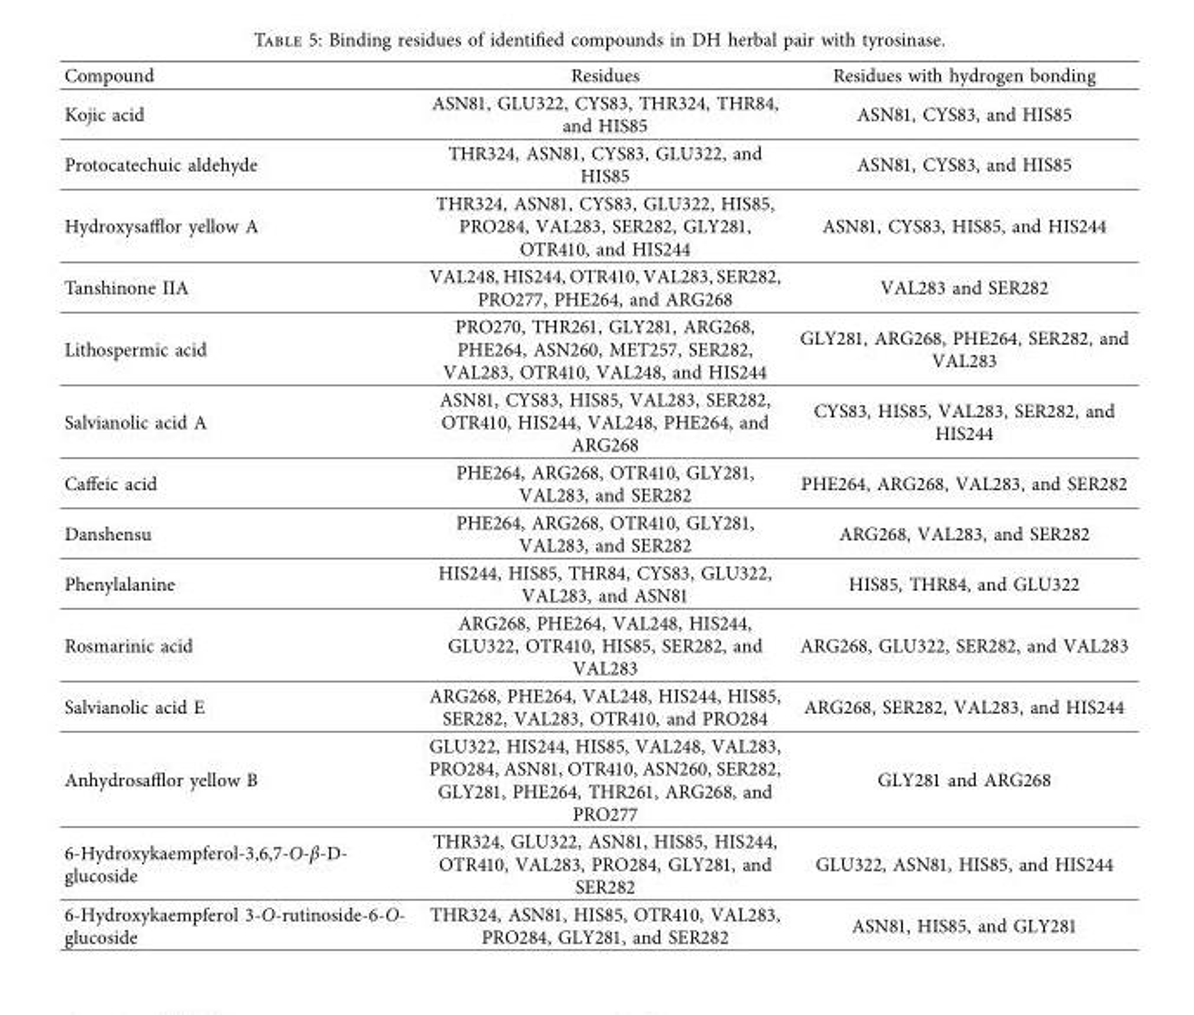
<table><thead><tr><td>Compound</td><td>Residues</td><td>Residues with hydrogen bonding</td></tr></thead><tbody><tr><td>Kojic acid</td><td>ASN81, GLU322, CYS83, THR324, THR84, and HIS85</td><td>ASN81, CYS83, and HIS85</td></tr><tr><td>Protocatechuic aldehyde</td><td>THR324, ASN81, CYS83, GLU322, and HIS85</td><td>ASN81, CYS83, and HIS85</td></tr><tr><td>Hydroxysafflor yellow A</td><td>THR324, ASN81, CYS83, GLU322, HIS85, PRO284, VAL283, SER282, GLY281, OTR410, and HIS244</td><td>ASN81, CYS83, HIS85, and HIS244</td></tr><tr><td>Tanshinone IIA</td><td>VAL248, HIS244, OTR410, VAL283, SER282, PRO277, PHE264, and ARG268</td><td>VAL283 and SER282</td></tr><tr><td>Lithospermic acid</td><td>PRO270, THR261, GLY281, ARG268, PHE264, ASN260, MET257, SER282, VAL283, OTR410, VAL248, and HIS244</td><td>GLY281, ARG268, PHE264, SER282, and VAL283</td></tr><tr><td>Salvianolic acid A</td><td>ASN81, CYS83, HIS85, VAL283, SER282, OTR410, HIS244, VAL248, PHE264, and ARG268</td><td>CYS83, HIS85, VAL283, SER282, and HIS244</td></tr><tr><td>Caffeic acid</td><td>PHE264, ARG268, OTR410, GLY281, VAL283, and SER282</td><td>PHE264, ARG268, VAL283, and SER282</td></tr><tr><td>Danshensu</td><td>PHE264, ARG268, OTR410, GLY281, VAL283, and SER282</td><td>ARG268, VAL283, and SER282</td></tr><tr><td>Phenylalanine</td><td>HIS244, HIS85, THR84, CYS83, GLU322, VAL283, and ASN81</td><td>HIS85, THR84, and GLU322</td></tr><tr><td>Rosmarinic acid</td><td>ARG268, PHE264, VAL248, HIS244, GLU322, OTR410, HIS85, SER282, and VAL283</td><td>ARG268, GLU322, SER282, and VAL283</td></tr><tr><td>Salvianolic acid E</td><td>ARG268, PHE264, VAL248, HIS244, HIS85, SER282, VAL283, OTR410, and PRO284</td><td>ARG268, SER282, VAL283, and HIS244</td></tr><tr><td>Anhydrosafflor yellow B</td><td>GLU322, HIS244, HIS85, VAL248, VAL283, PRO284, ASN81, OTR410, ASN260, SER282, GLY281, PHE264, THR261, ARG268, and PRO277</td><td>GLY281 and ARG268</td></tr><tr><td>6-Hydroxykaempferol-3,6,7-O-β-D- glucoside</td><td>THR324, GLU322, ASN81, HIS85, HIS244, OTR410, VAL283, PRO284, GLY281, and SER282</td><td>GLU322, ASN81, HIS85, and HIS244</td></tr><tr><td>6-Hydroxykaempferol 3-O-rutinoside-6-O- glucoside</td><td>THR324, ASN81, HIS85, OTR410, VAL283, PRO284, GLY281, and SER282</td><td>ASN81, HIS85, and GLY281</td></tr></tbody></table>